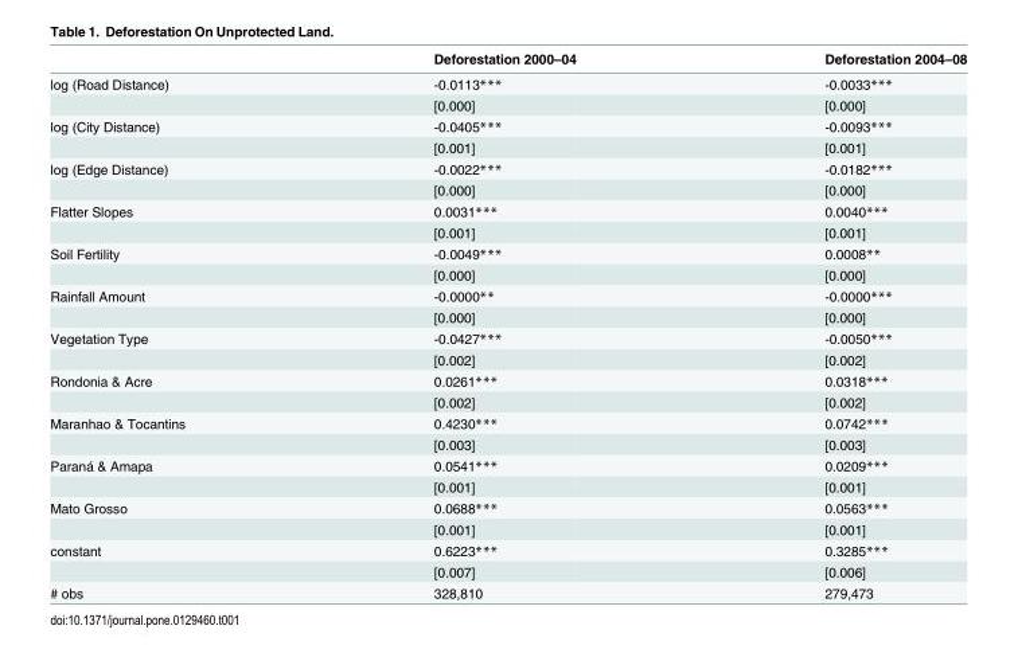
<table><thead><tr><td></td><td>Deforestation 2000–04</td><td>Deforestation 2004–08</td></tr></thead><tbody><tr><td rowspan="2">log (Road Distance)</td><td>-0.0113***</td><td>-0.0033***</td></tr><tr><td>[0.000]</td><td>[0.000]</td></tr><tr><td rowspan="2">log (City Distance)</td><td>-0.0405***</td><td>-0.0093***</td></tr><tr><td>[0.001]</td><td>[0.001]</td></tr><tr><td rowspan="2">log (Edge Distance)</td><td>-0.0022***</td><td>-0.0182***</td></tr><tr><td>[0.000]</td><td>[0.000]</td></tr><tr><td rowspan="2">Flatter Slopes</td><td>0.0031***</td><td>0.0040***</td></tr><tr><td>[0.001]</td><td>[0.001]</td></tr><tr><td rowspan="2">Soil Fertility</td><td>-0.0049***</td><td>0.0008**</td></tr><tr><td>[0.000]</td><td>[0.000]</td></tr><tr><td rowspan="2">Rainfall Amount</td><td>-0.0000**</td><td>-0.0000***</td></tr><tr><td>[0.000]</td><td>[0.000]</td></tr><tr><td rowspan="2">Vegetation Type</td><td>-0.0427***</td><td>-0.0050***</td></tr><tr><td>[0.002]</td><td>[0.002]</td></tr><tr><td rowspan="2">Rondonia &amp; Acre</td><td>0.0261***</td><td>0.0318***</td></tr><tr><td>[0.002]</td><td>[0.002]</td></tr><tr><td rowspan="2">Maranhao &amp; Tocantins</td><td>0.4230***</td><td>0.0742***</td></tr><tr><td>[0.003]</td><td>[0.003]</td></tr><tr><td rowspan="2">Paraná &amp; Amapa</td><td>0.0541***</td><td>0.0209***</td></tr><tr><td>[0.001]</td><td>[0.001]</td></tr><tr><td rowspan="2">Mato Grosso</td><td>0.0688***</td><td>0.0563***</td></tr><tr><td>[0.001]</td><td>[0.001]</td></tr><tr><td rowspan="2">constant</td><td>0.6223***</td><td>0.3285***</td></tr><tr><td>[0.007]</td><td>[0.006]</td></tr><tr><td># obs</td><td>328,810</td><td>279,473</td></tr></tbody></table>